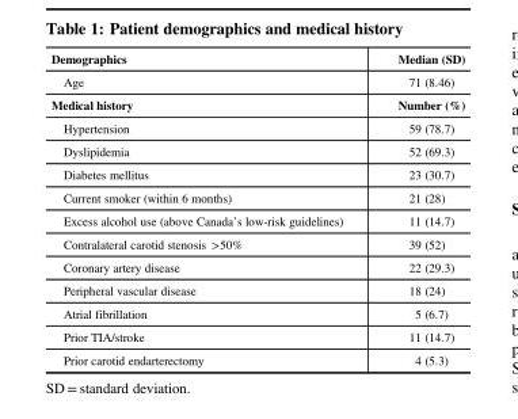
<table><thead><tr><td>Demographics</td><td>Median (SD)</td></tr></thead><tbody><tr><td>Age</td><td>71 (8.46)</td></tr><tr><td>Medical history</td><td>Number (%)</td></tr><tr><td>Hypertension</td><td>59 (78.7)</td></tr><tr><td>Dyslipidemia</td><td>52 (69.3)</td></tr><tr><td>Diabetes mellitus</td><td>23 (30.7)</td></tr><tr><td>Current smoker (within 6 months)</td><td>21 (28)</td></tr><tr><td>Excess alcohol use (above Canada’s low-risk guidelines)</td><td>11 (14.7)</td></tr><tr><td>Contralateral carotid stenosis &gt;50%</td><td>39 (52)</td></tr><tr><td>Coronary artery disease</td><td>22 (29.3)</td></tr><tr><td>Peripheral vascular disease</td><td>18 (24)</td></tr><tr><td>Atrial fibrillation</td><td>5 (6.7)</td></tr><tr><td>Prior TIA/stroke</td><td>11 (14.7)</td></tr><tr><td>Prior carotid endarterectomy</td><td>4 (5.3)</td></tr></tbody></table>